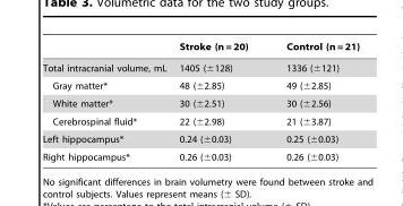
<table><thead><tr><td></td><td>Stroke (n = 20)</td><td>Control (n = 21)</td></tr></thead><tbody><tr><td>Total intracranial volume, mL</td><td>1405 (±128)</td><td>1336 (±121)</td></tr><tr><td>Gray matter*</td><td>48 (±2.85)</td><td>49 (±2.85)</td></tr><tr><td>White matter*</td><td>30 (±2.51)</td><td>30 (±2.56)</td></tr><tr><td>Cerebrospinal fluid*</td><td>22 (±2.98)</td><td>21 (±3.87)</td></tr><tr><td>Left hippocampus*</td><td>0.24 (±0.03)</td><td>0.25 (±0.03)</td></tr><tr><td>Right hippocampus*</td><td>0.26 (±0.03)</td><td>0.26 (±0.03)</td></tr></tbody></table>